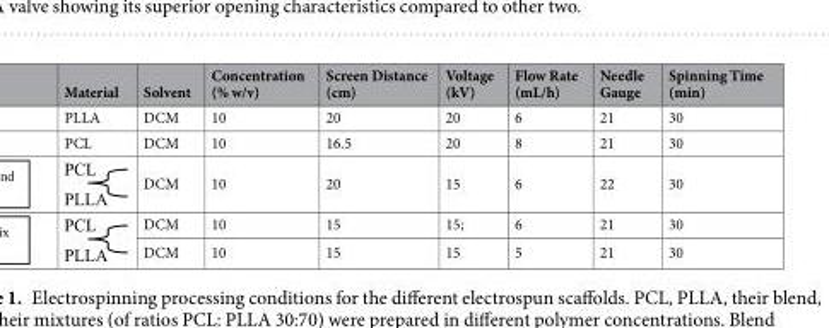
<table><thead><tr><td>Material</td><td>Solvent</td><td>Concentration (% w/v)</td><td>Screen Distance (cm)</td><td>Voltage (kV)</td><td>Flow Rate (mL/h)</td><td>Needle Gauge</td><td>Spinning Time (min)</td></tr></thead><tbody><tr><td>PLLA</td><td>DCM</td><td>10</td><td>20</td><td>20</td><td>6</td><td>21</td><td>30</td></tr><tr><td rowspan="4">PCL</td><td>DCM</td><td>10</td><td>16.5</td><td>20</td><td>8</td><td>21</td><td>30</td></tr><tr><td>DCM</td><td>10</td><td>20</td><td>15</td><td>6</td><td>22</td><td>30</td></tr><tr><td>DCM</td><td>10</td><td>15</td><td>15;</td><td>6</td><td>21</td><td>30</td></tr><tr><td>DCM</td><td>10</td><td>15</td><td>15</td><td>5</td><td>21</td><td>30</td></tr></tbody></table>